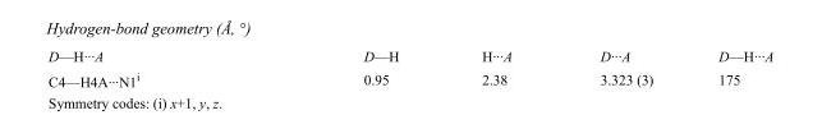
<table><tbody><tr><td>D—H···A</td><td>D—H</td><td>H···A</td><td>D···A</td><td>D—H···A</td></tr><tr><td>C4—H4A···N1<sup>i</sup></td><td>0.95</td><td>2.38</td><td>3.323 (3)</td><td>175</td></tr></tbody></table>